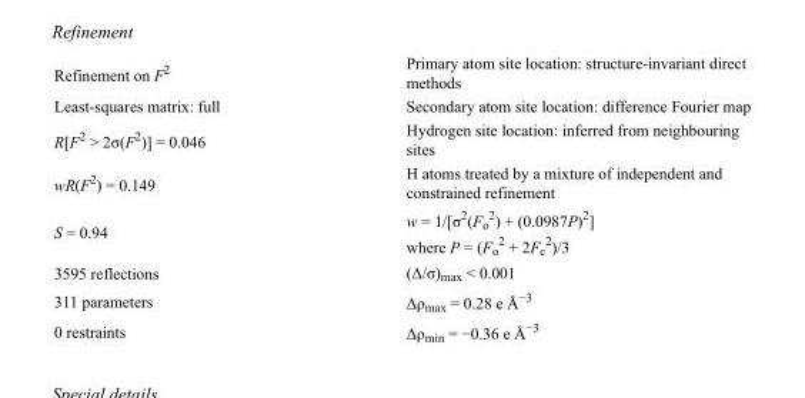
<table><tbody><tr><td>Refinement on F<sup>2</sup></td><td>Primary atom site location: structure-invariant direct methods</td></tr><tr><td>Least-squares matrix: full</td><td>Secondary atom site location: difference Fourier map</td></tr><tr><td>R[F<sup>2</sup> &gt; 2σ(F<sup>2</sup>)] = 0.046</td><td>Hydrogen site location: inferred from neighbouring sites</td></tr><tr><td>wR(F<sup>2</sup>) = 0.149</td><td>H atoms treated by a mixture of independent and constrained refinement</td></tr><tr><td>S = 0.94</td><td>w = 1/[σ<sup>2</sup>(F<sub>o</sub> <sup>2</sup>) + (0.0987P)<sup>2</sup>] where P = (F<sub>o</sub> <sup>2</sup> + 2F<sub>c</sub> <sup>2</sup>)/3</td></tr><tr><td>3595 reflections</td><td>(Δ/σ)<sub>max</sub> &lt; 0.001</td></tr><tr><td>311 parameters</td><td>Δρ<sub>max</sub> = 0.28 e Å<sup>−3</sup></td></tr><tr><td>0 restraints</td><td>Δρ<sub>min</sub> = −0.36 e Å<sup>−3</sup></td></tr></tbody></table>